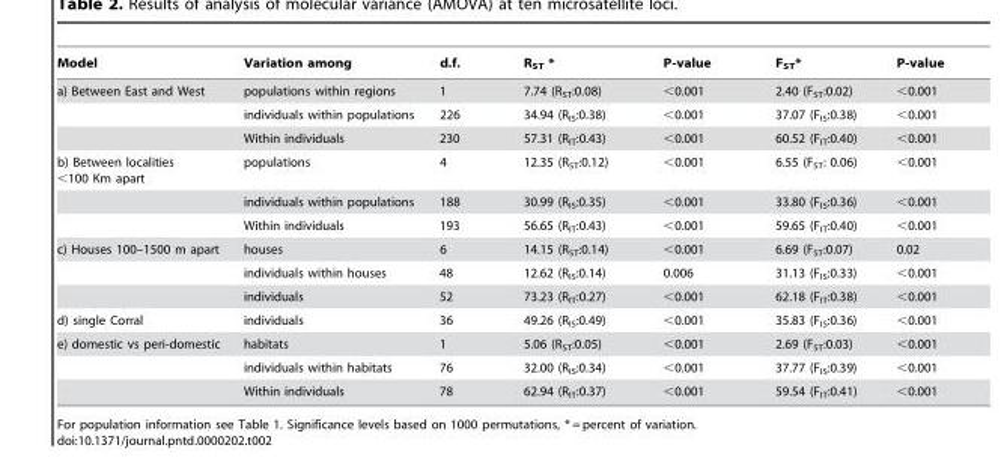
<table><thead><tr><td>Model</td><td>Variation among</td><td>d.f.</td><td>R<sub>ST</sub> *</td><td>P-value</td><td>F<sub>ST</sub>*</td><td>P-value</td></tr></thead><tbody><tr><td rowspan="3">a) Between East and West</td><td>populations within regions</td><td>1</td><td>7.74 (R<sub>ST</sub>:0.08)</td><td>&lt;0.001</td><td>2.40 (F<sub>ST</sub>:0.02)</td><td>&lt;0.001</td></tr><tr><td>individuals within populations</td><td>226</td><td>34.94 (R<sub>IS</sub>:0.38)</td><td>&lt;0.001</td><td>37.07 (F<sub>IS</sub>:0.38)</td><td>&lt;0.001</td></tr><tr><td>Within individuals</td><td>230</td><td>57.31 (R<sub>IT</sub>:0.43)</td><td>&lt;0.001</td><td>60.52 (F<sub>IT</sub>:0.40)</td><td>&lt;0.001</td></tr><tr><td rowspan="3">b) Between localities &lt;100 Km apart</td><td>populations</td><td>4</td><td>12.35 (R<sub>ST</sub>:0.12)</td><td>&lt;0.001</td><td>6.55 (F<sub>ST</sub>: 0.06)</td><td>&lt;0.001</td></tr><tr><td>individuals within populations</td><td>188</td><td>30.99 (R<sub>IS</sub>:0.35)</td><td>&lt;0.001</td><td>33.80 (F<sub>IS</sub>:0.36)</td><td>&lt;0.001</td></tr><tr><td>Within individuals</td><td>193</td><td>56.65 (R<sub>IT</sub>:0.43)</td><td>&lt;0.001</td><td>59.65 (F<sub>IT</sub>:0.40)</td><td>&lt;0.001</td></tr><tr><td rowspan="3">c) Houses 100–1500 m apart</td><td>houses</td><td>6</td><td>14.15 (R<sub>ST</sub>:0.14)</td><td>&lt;0.001</td><td>6.69 (F<sub>ST</sub>:0.07)</td><td>0.02</td></tr><tr><td>individuals within houses</td><td>48</td><td>12.62 (R<sub>IS</sub>:0.14)</td><td>0.006</td><td>31.13 (F<sub>IS</sub>:0.33)</td><td>&lt;0.001</td></tr><tr><td>individuals</td><td>52</td><td>73.23 (R<sub>IT</sub>:0.27)</td><td>&lt;0.001</td><td>62.18 (F<sub>IT</sub>:0.38)</td><td>&lt;0.001</td></tr><tr><td>d) single Corral</td><td>individuals</td><td>36</td><td>49.26 (R<sub>IS</sub>:0.49)</td><td>&lt;0.001</td><td>35.83 (F<sub>IS</sub>:0.36)</td><td>&lt;0.001</td></tr><tr><td rowspan="3">e) domestic vs peri-domestic</td><td>habitats</td><td>1</td><td>5.06 (R<sub>ST</sub>:0.05)</td><td>&lt;0.001</td><td>2.69 (F<sub>ST</sub>:0.03)</td><td>&lt;0.001</td></tr><tr><td>individuals within habitats</td><td>76</td><td>32.00 (R<sub>IS</sub>:0.34)</td><td>&lt;0.001</td><td>37.77 (F<sub>IS</sub>:0.39)</td><td>&lt;0.001</td></tr><tr><td>Within individuals</td><td>78</td><td>62.94 (R<sub>IT</sub>:0.37)</td><td>&lt;0.001</td><td>59.54 (F<sub>IT</sub>:0.41)</td><td>&lt;0.001</td></tr></tbody></table>